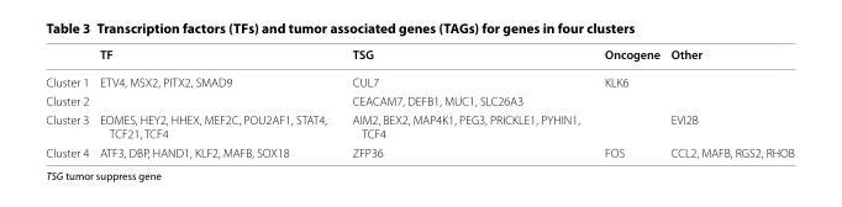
<table><thead><tr><td></td><td>TF</td><td>TSG</td><td>Oncogene</td><td>Other</td></tr></thead><tbody><tr><td>Cluster 1</td><td>ETV4, MSX2, PITX2, SMAD9</td><td>CUL7</td><td>KLK6</td><td></td></tr><tr><td>Cluster 2</td><td></td><td>CEACAM7, DEFB1, MUC1, SLC26A3</td><td></td><td></td></tr><tr><td>Cluster 3</td><td>EOMES, HEY2, HHEX, MEF2C, POU2AF1, STAT4, TCF21, TCF4</td><td>AIM2, BEX2, MAP4K1, PEG3, PRICKLE1, PYHIN1, TCF4</td><td></td><td>EVI2B</td></tr><tr><td>Cluster 4</td><td>ATF3, DBP, HAND1, KLF2, MAFB, SOX18</td><td>ZFP36</td><td>FOS</td><td>CCL2, MAFB, RGS2, RHOB</td></tr></tbody></table>